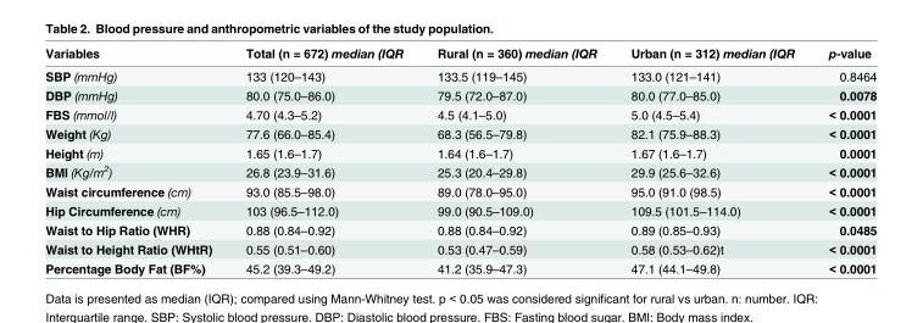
<table><thead><tr><td>Variables</td><td>Total (n = 672) median (IQR</td><td>Rural (n = 360) median (IQR</td><td>Urban (n = 312) median (IQR</td><td>p-value</td></tr></thead><tbody><tr><td>SBP (mmHg)</td><td>133 (120–143)</td><td>133.5 (119–145)</td><td>133.0 (121–141)</td><td>0.8464</td></tr><tr><td>DBP (mmHg)</td><td>80.0 (75.0–86.0)</td><td>79.5 (72.0–87.0)</td><td>80.0 (77.0–85.0)</td><td>0.0078</td></tr><tr><td>FBS (mmol/l)</td><td>4.70 (4.3–5.2)</td><td>4.5 (4.1–5.0)</td><td>5.0 (4.5–5.4)</td><td>&lt; 0.0001</td></tr><tr><td>Weight (Kg)</td><td>77.6 (66.0–85.4)</td><td>68.3 (56.5–79.8)</td><td>82.1 (75.9–88.3)</td><td>&lt; 0.0001</td></tr><tr><td>Height (m)</td><td>1.65 (1.6–1.7)</td><td>1.64 (1.6–1.7)</td><td>1.67 (1.6–1.7)</td><td>0.0001</td></tr><tr><td>BMI (Kg/m<sup>2</sup>)</td><td>26.8 (23.9–31.6)</td><td>25.3 (20.4–29.8)</td><td>29.9 (25.6–32.6)</td><td>&lt; 0.0001</td></tr><tr><td>Waist circumference (cm)</td><td>93.0 (85.5–98.0)</td><td>89.0 (78.0–95.0)</td><td>95.0 (91.0 (98.5)</td><td>&lt; 0.0001</td></tr><tr><td>Hip Circumference (cm)</td><td>103 (96.5–112.0)</td><td>99.0 (90.5–109.0)</td><td>109.5 (101.5–114.0)</td><td>&lt; 0.0001</td></tr><tr><td>Waist to Hip Ratio (WHR)</td><td>0.88 (0.84–0.92)</td><td>0.88 (0.84–0.92)</td><td>0.89 (0.85–0.93)</td><td>0.0485</td></tr><tr><td>Waist to Height Ratio (WHtR)</td><td>0.55 (0.51–0.60)</td><td>0.53 (0.47–0.59)</td><td>0.58 (0.53–0.62)t</td><td>&lt; 0.0001</td></tr><tr><td>Percentage Body Fat (BF%)</td><td>45.2 (39.3–49.2)</td><td>41.2 (35.9–47.3)</td><td>47.1 (44.1–49.8)</td><td>&lt; 0.0001</td></tr></tbody></table>